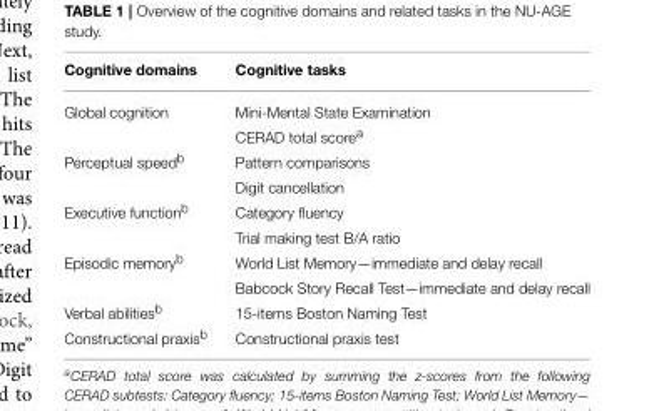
<table><thead><tr><td>Cognitive domains</td><td>Cognitive tasks</td></tr></thead><tbody><tr><td rowspan="2">Global cognition</td><td>Mini-Mental State Examination</td></tr><tr><td>CERAD total score<sup>a</sup></td></tr><tr><td rowspan="2">Perceptual speed<sup>b</sup></td><td>Pattern comparisons</td></tr><tr><td>Digit cancellation</td></tr><tr><td rowspan="2">Executive function<sup>b</sup></td><td>Category fluency</td></tr><tr><td>Trial making test B/A ratio</td></tr><tr><td rowspan="2">Episodic memory<sup>b</sup></td><td>World List Memory—immediate and delay recall</td></tr><tr><td>Babcock Story Recall Test—immediate and delay recall</td></tr><tr><td>Verbal abilities<sup>b</sup></td><td>15-items Boston Naming Test</td></tr><tr><td>Constructional praxis<sup>b</sup></td><td>Constructional praxis test</td></tr></tbody></table>